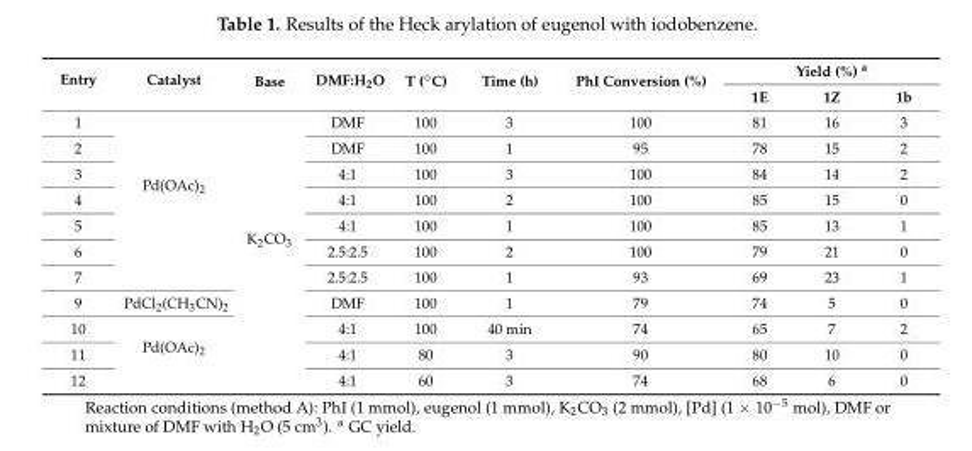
<table><thead><tr><td rowspan="2">Entry</td><td rowspan="2">Catalyst</td><td rowspan="2">Base</td><td rowspan="2">DMF:H2O</td><td rowspan="2">T (◦C)</td><td rowspan="2">Time (h)</td><td rowspan="2">PhI Conversion (%)</td><td colspan="3">Yield (%) a</td></tr><tr><td>1E</td><td>1Z</td><td>1b</td></tr></thead><tbody><tr><td>1</td><td rowspan="7">Pd(OAc)2</td><td rowspan="11">K2CO3</td><td>DMF</td><td>100</td><td>3</td><td>100</td><td>81</td><td>16</td><td>3</td></tr><tr><td>2</td><td>DMF</td><td>100</td><td>1</td><td>95</td><td>78</td><td>15</td><td>2</td></tr><tr><td>3</td><td>4:1</td><td>100</td><td>3</td><td>100</td><td>84</td><td>14</td><td>2</td></tr><tr><td>4</td><td>4:1</td><td>100</td><td>2</td><td>100</td><td>85</td><td>15</td><td>0</td></tr><tr><td>5</td><td>4:1</td><td>100</td><td>1</td><td>100</td><td>85</td><td>13</td><td>1</td></tr><tr><td>6</td><td>2.5:2.5</td><td>100</td><td>2</td><td>100</td><td>79</td><td>21</td><td>0</td></tr><tr><td>7</td><td>2.5:2.5</td><td>100</td><td>1</td><td>93</td><td>69</td><td>23</td><td>1</td></tr><tr><td>9</td><td>PdCl2(CH3CN)2</td><td>DMF</td><td>100</td><td>1</td><td>79</td><td>74</td><td>5</td><td>0</td></tr><tr><td>10</td><td rowspan="3">Pd(OAc)2</td><td>4:1</td><td>100</td><td>40 min</td><td>74</td><td>65</td><td>7</td><td>2</td></tr><tr><td>11</td><td>4:1</td><td>80</td><td>3</td><td>90</td><td>80</td><td>10</td><td>0</td></tr><tr><td>12</td><td>4:1</td><td>60</td><td>3</td><td>74</td><td>68</td><td>6</td><td>0</td></tr></tbody></table>